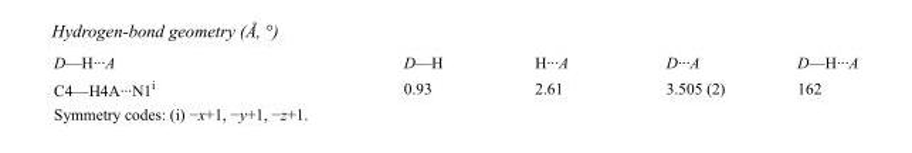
<table><tbody><tr><td>D—H···A</td><td>D—H</td><td>H···A</td><td>D···A</td><td>D—H···A</td></tr><tr><td>C4—H4A···N1<sup>i</sup></td><td>0.93</td><td>2.61</td><td>3.505 (2)</td><td>162</td></tr></tbody></table>